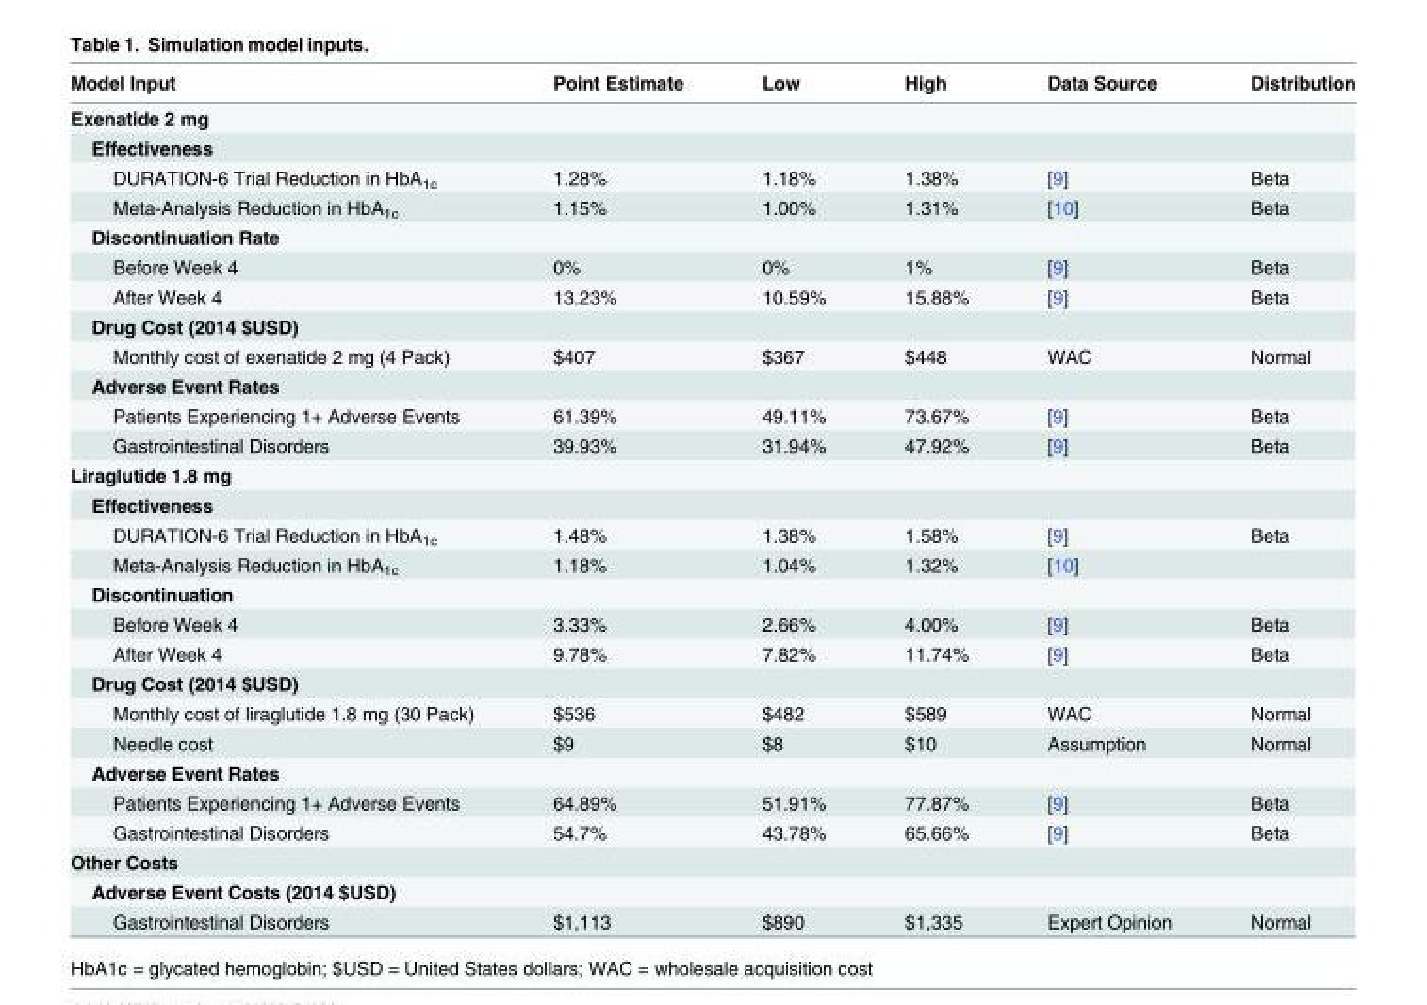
<table><thead><tr><td>Model Input</td><td>Point Estimate</td><td>Low</td><td>High</td><td>Data Source</td><td>Distribution</td></tr></thead><tbody><tr><td colspan="6">Exenatide 2 mg</td></tr><tr><td colspan="6">Effectiveness</td></tr><tr><td>DURATION-6 Trial Reduction in HbA<sub>1c</sub></td><td>1.28%</td><td>1.18%</td><td>1.38%</td><td>[9]</td><td>Beta</td></tr><tr><td>Meta-Analysis Reduction in HbA<sub>1c</sub></td><td>1.15%</td><td>1.00%</td><td>1.31%</td><td>[10]</td><td>Beta</td></tr><tr><td colspan="6">Discontinuation Rate</td></tr><tr><td>Before Week 4</td><td>0%</td><td>0%</td><td>1%</td><td>[9]</td><td>Beta</td></tr><tr><td>After Week 4</td><td>13.23%</td><td>10.59%</td><td>15.88%</td><td>[9]</td><td>Beta</td></tr><tr><td colspan="6">Drug Cost (2014 $USD)</td></tr><tr><td>Monthly cost of exenatide 2 mg (4 Pack)</td><td>$407</td><td>$367</td><td>$448</td><td>WAC</td><td>Normal</td></tr><tr><td colspan="6">Adverse Event Rates</td></tr><tr><td>Patients Experiencing 1+ Adverse Events</td><td>61.39%</td><td>49.11%</td><td>73.67%</td><td>[9]</td><td>Beta</td></tr><tr><td>Gastrointestinal Disorders</td><td>39.93%</td><td>31.94%</td><td>47.92%</td><td>[9]</td><td>Beta</td></tr><tr><td colspan="6">Liraglutide 1.8 mg</td></tr><tr><td colspan="6">Effectiveness</td></tr><tr><td>DURATION-6 Trial Reduction in HbA<sub>1c</sub></td><td>1.48%</td><td>1.38%</td><td>1.58%</td><td>[9]</td><td>Beta</td></tr><tr><td>Meta-Analysis Reduction in HbA<sub>1c</sub></td><td>1.18%</td><td>1.04%</td><td>1.32%</td><td>[10]</td><td></td></tr><tr><td colspan="6">Discontinuation</td></tr><tr><td>Before Week 4</td><td>3.33%</td><td>2.66%</td><td>4.00%</td><td>[9]</td><td>Beta</td></tr><tr><td>After Week 4</td><td>9.78%</td><td>7.82%</td><td>11.74%</td><td>[9]</td><td>Beta</td></tr><tr><td colspan="6">Drug Cost (2014 $USD)</td></tr><tr><td>Monthly cost of liraglutide 1.8 mg (30 Pack)</td><td>$536</td><td>$482</td><td>$589</td><td>WAC</td><td>Normal</td></tr><tr><td>Needle cost</td><td>$9</td><td>$8</td><td>$10</td><td>Assumption</td><td>Normal</td></tr><tr><td colspan="6">Adverse Event Rates</td></tr><tr><td>Patients Experiencing 1+ Adverse Events</td><td>64.89%</td><td>51.91%</td><td>77.87%</td><td>[9]</td><td>Beta</td></tr><tr><td>Gastrointestinal Disorders</td><td>54.7%</td><td>43.78%</td><td>65.66%</td><td>[9]</td><td>Beta</td></tr><tr><td colspan="6">Other Costs</td></tr><tr><td colspan="6">Adverse Event Costs (2014 $USD)</td></tr><tr><td>Gastrointestinal Disorders</td><td>$1,113</td><td>$890</td><td>$1,335</td><td>Expert Opinion</td><td>Normal</td></tr></tbody></table>